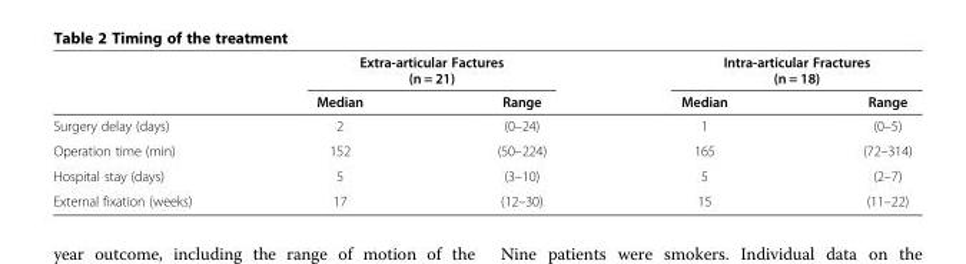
<table><thead><tr><td rowspan="2"></td><td colspan="2">Extra-articular Factures (n = 21)</td><td colspan="2">Intra-articular Fractures (n = 18)</td></tr><tr><td>Median</td><td>Range</td><td>Median</td><td>Range</td></tr></thead><tbody><tr><td>Surgery delay (days)</td><td>2</td><td>(0–24)</td><td>1</td><td>(0–5)</td></tr><tr><td>Operation time (min)</td><td>152</td><td>(50–224)</td><td>165</td><td>(72–314)</td></tr><tr><td>Hospital stay (days)</td><td>5</td><td>(3–10)</td><td>5</td><td>(2–7)</td></tr><tr><td>External fixation (weeks)</td><td>17</td><td>(12–30)</td><td>15</td><td>(11–22)</td></tr></tbody></table>